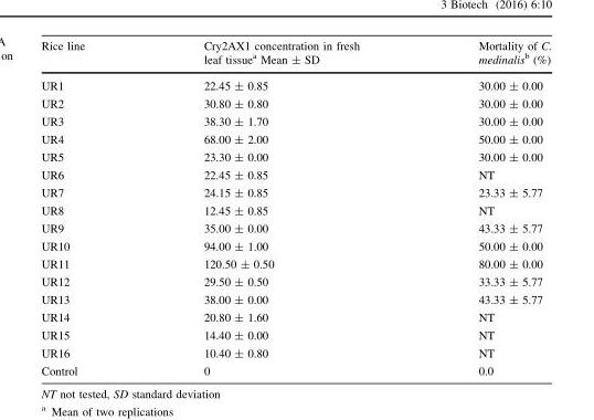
<table><thead><tr><td>Rice line</td><td>Cry2AX1 concentration in fresh leaf tissue<sup>a</sup> Mean ± SD</td><td>Mortality of C. medinalis<sup>b</sup> (%)</td></tr></thead><tbody><tr><td>UR1</td><td>22.45 ± 0.85</td><td>30.00 ± 0.00</td></tr><tr><td>UR2</td><td>30.80 ± 0.80</td><td>30.00 ± 0.00</td></tr><tr><td>UR3</td><td>38.30 ± 1.70</td><td>30.00 ± 0.00</td></tr><tr><td>UR4</td><td>68.00 ± 2.00</td><td>50.00 ± 0.00</td></tr><tr><td>UR5</td><td>23.30 ± 0.00</td><td>30.00 ± 0.00</td></tr><tr><td>UR6</td><td>22.45 ± 0.85</td><td>NT</td></tr><tr><td>UR7</td><td>24.15 ± 0.85</td><td>23.33 ± 5.77</td></tr><tr><td>UR8</td><td>12.45 ± 0.85</td><td>NT</td></tr><tr><td>UR9</td><td>35.00 ± 0.00</td><td>43.33 ± 5.77</td></tr><tr><td>UR10</td><td>94.00 ± 1.00</td><td>50.00 ± 0.00</td></tr><tr><td>UR11</td><td>120.50 ± 0.50</td><td>80.00 ± 0.00</td></tr><tr><td>UR12</td><td>29.50 ± 0.50</td><td>33.33 ± 5.77</td></tr><tr><td>UR13</td><td>38.00 ± 0.00</td><td>43.33 ± 5.77</td></tr><tr><td>UR14</td><td>20.80 ± 1.60</td><td>NT</td></tr><tr><td>UR15</td><td>14.40 ± 0.00</td><td>NT</td></tr><tr><td>UR16</td><td>10.40 ± 0.80</td><td>NT</td></tr><tr><td>Control</td><td>0</td><td>0.0</td></tr></tbody></table>